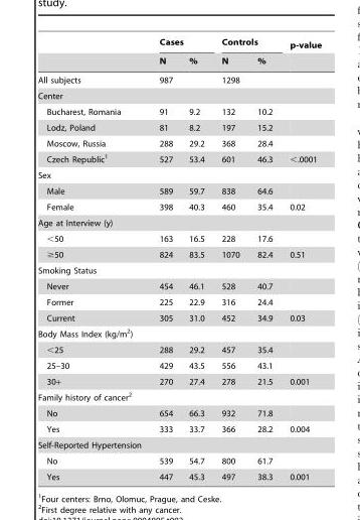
<table><thead><tr><td rowspan="2"></td><td colspan="2">Cases</td><td colspan="2">Controls</td><td rowspan="2">p-value</td></tr><tr><td>N</td><td>%</td><td>N</td><td>%</td></tr></thead><tbody><tr><td>All subjects</td><td>987</td><td></td><td>1298</td><td></td><td></td></tr><tr><td colspan="6">Center</td></tr><tr><td>Bucharest, Romania</td><td>91</td><td>9.2</td><td>132</td><td>10.2</td><td></td></tr><tr><td>Lodz, Poland</td><td>81</td><td>8.2</td><td>197</td><td>15.2</td><td></td></tr><tr><td>Moscow, Russia</td><td>288</td><td>29.2</td><td>368</td><td>28.4</td><td></td></tr><tr><td>Czech Republic<sup>1</sup></td><td>527</td><td>53.4</td><td>601</td><td>46.3</td><td>&lt;.0001</td></tr><tr><td colspan="6">Sex</td></tr><tr><td>Male</td><td>589</td><td>59.7</td><td>838</td><td>64.6</td><td></td></tr><tr><td>Female</td><td>398</td><td>40.3</td><td>460</td><td>35.4</td><td>0.02</td></tr><tr><td colspan="6">Age at Interview (y)</td></tr><tr><td>&lt;50</td><td>163</td><td>16.5</td><td>228</td><td>17.6</td><td></td></tr><tr><td>≥50</td><td>824</td><td>83.5</td><td>1070</td><td>82.4</td><td>0.51</td></tr><tr><td colspan="6">Smoking Status</td></tr><tr><td>Never</td><td>454</td><td>46.1</td><td>528</td><td>40.7</td><td></td></tr><tr><td>Former</td><td>225</td><td>22.9</td><td>316</td><td>24.4</td><td></td></tr><tr><td>Current</td><td>305</td><td>31.0</td><td>452</td><td>34.9</td><td>0.03</td></tr><tr><td colspan="6">Body Mass Index (kg/m<sup>2</sup>)</td></tr><tr><td>&lt;25</td><td>288</td><td>29.2</td><td>457</td><td>35.4</td><td></td></tr><tr><td>25–30</td><td>429</td><td>43.5</td><td>556</td><td>43.1</td><td></td></tr><tr><td>30+</td><td>270</td><td>27.4</td><td>278</td><td>21.5</td><td>0.001</td></tr><tr><td colspan="6">Family history of cancer<sup>2</sup></td></tr><tr><td>No</td><td>654</td><td>66.3</td><td>932</td><td>71.8</td><td></td></tr><tr><td>Yes</td><td>333</td><td>33.7</td><td>366</td><td>28.2</td><td>0.004</td></tr><tr><td colspan="6">Self-Reported Hypertension</td></tr><tr><td>No</td><td>539</td><td>54.7</td><td>800</td><td>61.7</td><td></td></tr><tr><td>Yes</td><td>447</td><td>45.3</td><td>497</td><td>38.3</td><td>0.001</td></tr></tbody></table>